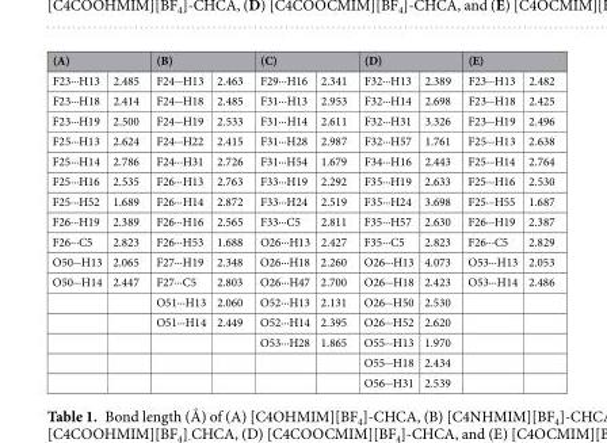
<table><thead><tr><td colspan="2">(A)</td><td colspan="2">(B)</td><td colspan="2">(C)</td><td colspan="2">(D)</td><td colspan="2">(E)</td></tr><tr><td>F23···H13</td><td>2.485</td><td>F24···H13</td><td>2.463</td><td>F29···H16</td><td>2.341</td><td>F32···H13</td><td>2.389</td><td>F23···H13</td><td>2.482</td></tr></thead><tbody><tr><td>F23···H18</td><td>2.414</td><td>F24···H18</td><td>2.485</td><td>F31···H13</td><td>2.953</td><td>F32···H14</td><td>2.698</td><td>F23···H18</td><td>2.425</td></tr><tr><td>F23···H19</td><td>2.500</td><td>F24···H19</td><td>2.533</td><td>F31···H14</td><td>2.611</td><td>F32···H31</td><td>3.326</td><td>F23···H19</td><td>2.496</td></tr><tr><td>F25···H13</td><td>2.624</td><td>F24···H22</td><td>2.415</td><td>F31···H28</td><td>2.987</td><td>F32···H57</td><td>1.761</td><td>F25···H13</td><td>2.638</td></tr><tr><td>F25···H14</td><td>2.786</td><td>F24···H31</td><td>2.726</td><td>F31···H54</td><td>1.679</td><td>F34···H16</td><td>2.443</td><td>F25···H14</td><td>2.764</td></tr><tr><td>F25···H16</td><td>2.535</td><td>F26···H13</td><td>2.763</td><td>F33···H19</td><td>2.292</td><td>F35···H19</td><td>2.633</td><td>F25···H16</td><td>2.530</td></tr><tr><td>F25···H52</td><td>1.689</td><td>F26···H14</td><td>2.872</td><td>F33···H24</td><td>2.519</td><td>F35···H24</td><td>3.698</td><td>F25···H55</td><td>1.687</td></tr><tr><td>F26···H19</td><td>2.389</td><td>F26···H16</td><td>2.565</td><td>F33···C5</td><td>2.811</td><td>F35···H57</td><td>2.630</td><td>F26···H19</td><td>2.387</td></tr><tr><td>F26···C5</td><td>2.823</td><td>F26···H53</td><td>1.688</td><td>O26···H13</td><td>2.427</td><td>F35···C5</td><td>2.823</td><td>F26···C5</td><td>2.829</td></tr><tr><td>O50···H13</td><td>2.065</td><td>F27···H19</td><td>2.348</td><td>O26···H18</td><td>2.260</td><td>O26···H13</td><td>4.073</td><td>O53···H13</td><td>2.053</td></tr><tr><td rowspan="6">O50···H14</td><td>2.447</td><td>F27···C5</td><td>2.803</td><td>O26···H47</td><td>2.700</td><td>O26···H18</td><td>2.423</td><td>O53···H14</td><td>2.486</td></tr><tr><td></td><td>O51···H13</td><td>2.060</td><td>O52···H13</td><td>2.131</td><td>O26···H50</td><td>2.530</td><td></td><td></td></tr><tr><td></td><td>O51···H14</td><td>2.449</td><td>O52···H14</td><td>2.395</td><td>O26···H52</td><td>2.620</td><td></td><td></td></tr><tr><td></td><td></td><td></td><td>O53···H28</td><td>1.865</td><td>O55···H13</td><td>1.970</td><td></td><td></td></tr><tr><td></td><td></td><td></td><td></td><td></td><td>O55···H18</td><td>2.434</td><td></td><td></td></tr><tr><td></td><td></td><td></td><td></td><td></td><td>O56···H31</td><td>2.539</td><td></td><td></td></tr></tbody></table>